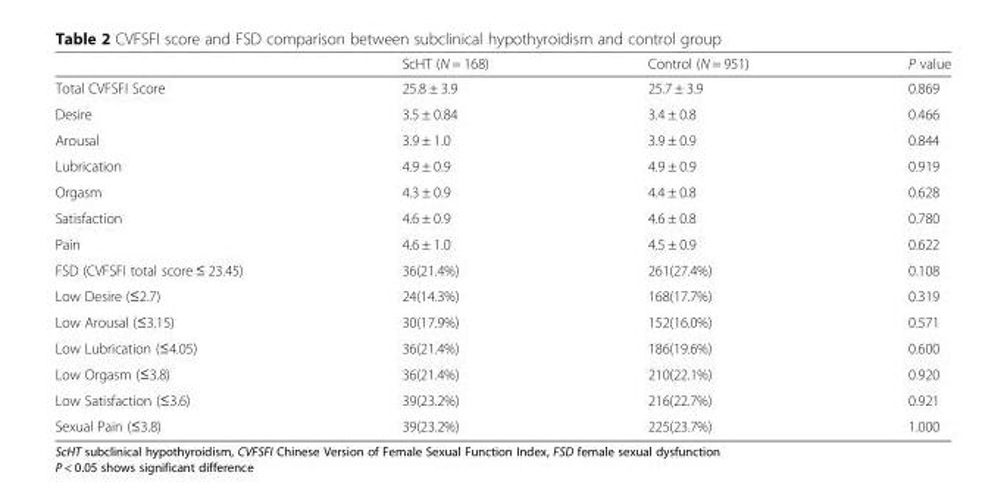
<table><thead><tr><td></td><td>ScHT (N = 168)</td><td>Control (N = 951)</td><td>P value</td></tr></thead><tbody><tr><td>Total CVFSFI Score</td><td>25.8 ± 3.9</td><td>25.7 ± 3.9</td><td>0.869</td></tr><tr><td>Desire</td><td>3.5 ± 0.84</td><td>3.4 ± 0.8</td><td>0.466</td></tr><tr><td>Arousal</td><td>3.9 ± 1.0</td><td>3.9 ± 0.9</td><td>0.844</td></tr><tr><td>Lubrication</td><td>4.9 ± 0.9</td><td>4.9 ± 0.9</td><td>0.919</td></tr><tr><td>Orgasm</td><td>4.3 ± 0.9</td><td>4.4 ± 0.8</td><td>0.628</td></tr><tr><td>Satisfaction</td><td>4.6 ± 0.9</td><td>4.6 ± 0.8</td><td>0.780</td></tr><tr><td>Pain</td><td>4.6 ± 1.0</td><td>4.5 ± 0.9</td><td>0.622</td></tr><tr><td>FSD (CVFSFI total score ≤ 23.45)</td><td>36(21.4%)</td><td>261(27.4%)</td><td>0.108</td></tr><tr><td>Low Desire (≤2.7)</td><td>24(14.3%)</td><td>168(17.7%)</td><td>0.319</td></tr><tr><td>Low Arousal (≤3.15)</td><td>30(17.9%)</td><td>152(16.0%)</td><td>0.571</td></tr><tr><td>Low Lubrication (≤4.05)</td><td>36(21.4%)</td><td>186(19.6%)</td><td>0.600</td></tr><tr><td>Low Orgasm (≤3.8)</td><td>36(21.4%)</td><td>210(22.1%)</td><td>0.920</td></tr><tr><td>Low Satisfaction (≤3.6)</td><td>39(23.2%)</td><td>216(22.7%)</td><td>0.921</td></tr><tr><td>Sexual Pain (≤3.8)</td><td>39(23.2%)</td><td>225(23.7%)</td><td>1.000</td></tr></tbody></table>